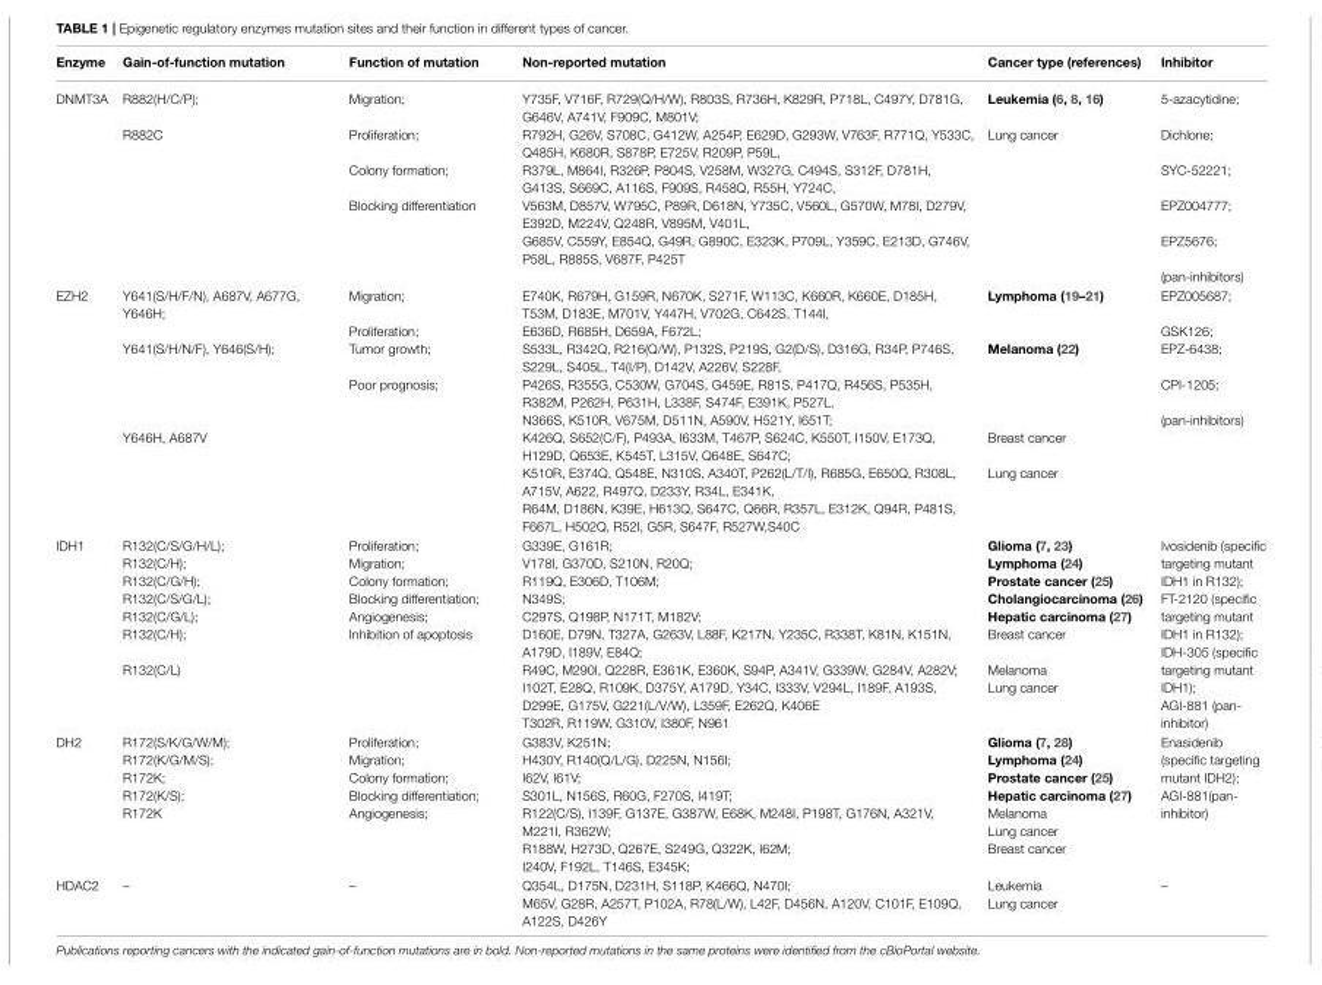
<table><thead><tr><td>Enzyme</td><td>Gain-of-function mutation</td><td>Function of mutation</td><td>Non-reported mutation</td><td>Cancer type (references)</td><td>Inhibitor</td></tr></thead><tbody><tr><td>DNMT3A</td><td>R882(H/C/P); R882C</td><td>Migration; Proliferation; Colony formation; Blocking differentiation</td><td>Y735F, V716F, R729(Q/H/W), R803S, R736H, K829R, P718L, C497Y, D781G, G646V, A741V, F909C, M801V; R792H, G26V, S708C, G412W, A254P, E629D, G293W, V763F, R771Q, Y533C, Q485H, K680R, S878P, E725V, R209P, P59L, R379L, M864I, R326P, P804S, V258M, W327G, C494S, S312F, D781H, G413S, S669C, A116S, F909S, R458Q, R55H, Y724C, V563M, D857V, W795C, P89R, D618N, Y735C, V560L, G570W, M78I, D279V, E392D, M224V, Q248R, V895M, V401L, G685V, C559Y, E854Q, G49R, G890C, E323K, P709L, Y359C, E213D, G746V, P58L, R885S, V687F, P425T</td><td>Leukemia (6, 8, 16) Lung cancer</td><td>5-azacytidine; Dichlone; SYC-52221; EPZ004777; EPZ5676; (pan-inhibitors)</td></tr><tr><td>EZH2</td><td>Y641(S/H/F/N), A687V, A677G, Y646H; Y641(S/H/N/F), Y646(S/H); Y646H, A687V</td><td>Migration; Proliferation; Tumor growth; Poor prognosis;</td><td>E740K, R679H, G159R, N670K, S271F, W113C, K660R, K660E, D185H, T53M, D183E, M701V, Y447H, V702G, C642S, T144I, E636D, R685H, D659A, F672L; S533L, R342Q, R216(Q/W), P132S, P219S, G2(D/S), D316G, R34P, P746S, S229L, S405L, T4(I/P), D142V, A226V, S228F, P426S, R355G, C530W, G704S, G459E, R81S, P417Q, R456S, P535H, R382M, P262H, P631H, L338F, S474F, E391K, P527L, N366S, K510R, V675M, D511N, A590V, H521Y, I651T; K426Q, S652(C/F), P493A, I633M, T467P, S624C, K550T, I150V, E173Q, H129D, Q653E, K545T, L315V, Q648E, S647C; K510R, E374Q, Q548E, N310S, A340T, P262(L/T/I), R685G, E650Q, R308L, A715V, A622, R497Q, D233Y, R34L, E341K, R64M, D186N, K39E, H613Q, S647C, Q66R, R357L, E312K, Q94R, P481S, F667L, H502Q, R52I, G5R, S647F, R527W,S40C</td><td>Lymphoma (19–21) Melanoma (22) Breast cancer Lung cancer</td><td>EPZ005687; GSK126; EPZ-6438; CPI-1205; (pan-inhibitors)</td></tr><tr><td>IDH1</td><td>R132(C/S/G/H/L); R132(C/H); R132(C/G/H); R132(C/S/G/L); R132(C/G/L); R132(C/H); R132(C/L)</td><td>Proliferation; Migration; Colony formation; Blocking differentiation; Angiogenesis; Inhibition of apoptosis</td><td>G339E, G161R; V178I, G370D, S210N, R20Q; R119Q, E306D, T106M; N349S; C297S, Q198P, N171T, M182V; D160E, D79N, T327A, G263V, L88F, K217N, Y235C, R338T, K81N, K151N, A179D, I189V, E84Q; R49C, M290I, Q228R, E361K, E360K, S94P, A341V, G339W, G284V, A282V; I102T, E28Q, R109K, D375Y, A179D, Y34C, I333V, V294L, I189F, A193S, D299E, G175V, G221(L/V/W), L359F, E262Q, K406E T302R, R119W, G310V, I380F, N961</td><td>Glioma (7, 23) Lymphoma (24) Prostate cancer (25) Cholangiocarcinoma (26) Hepatic carcinoma (27) Breast cancer Melanoma Lung cancer</td><td>Ivosidenib (specific targeting mutant IDH1 in R132); FT-2120 (specific targeting mutant IDH1 in R132); IDH-305 (specific targeting mutant IDH1); AGI-881 (pan- inhibitor)</td></tr><tr><td>DH2</td><td>R172(S/K/G/W/M); R172(K/G/M/S); R172K; R172(K/S); R172K</td><td>Proliferation; Migration; Colony formation; Blocking differentiation; Angiogenesis;</td><td>G383V, K251N; H430Y, R140(Q/L/G), D225N, N156I; I62V, I61V; S301L, N156S, R60G, F270S, I419T; R122(C/S), I139F, G137E, G387W, E68K, M248I, P198T, G176N, A321V, M221I, R362W; R188W, H273D, Q267E, S249G, Q322K, I62M; I240V, F192L, T146S, E345K;</td><td>Glioma (7, 28) Lymphoma (24) Prostate cancer (25) Hepatic carcinoma (27) Melanoma Lung cancer Breast cancer</td><td>Enasidenib (specific targeting mutant IDH2); AGI-881(pan- inhibitor)</td></tr><tr><td>HDAC2</td><td>–</td><td>–</td><td>Q354L, D175N, D231H, S118P, K466Q, N470I; M65V, G28R, A257T, P102A, R78(L/W), L42F, D456N, A120V, C101F, E109Q, A122S, D426Y</td><td>Leukemia Lung cancer</td><td>–</td></tr></tbody></table>